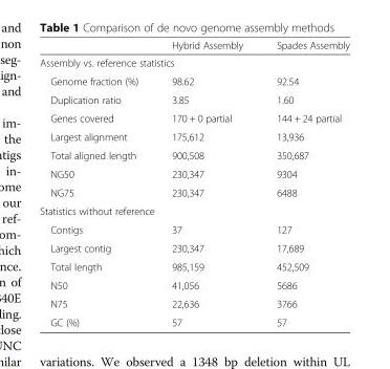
<table><thead><tr><td></td><td>Hybrid Assembly</td><td>Spades Assembly</td></tr></thead><tbody><tr><td colspan="3">Assembly vs. reference statistics</td></tr><tr><td>Genome fraction (%)</td><td>98.62</td><td>92.54</td></tr><tr><td>Duplication ratio</td><td>3.85</td><td>1.60</td></tr><tr><td>Genes covered</td><td>170 + 0 partial</td><td>144 + 24 partial</td></tr><tr><td>Largest alignment</td><td>175,612</td><td>13,936</td></tr><tr><td>Total aligned length</td><td>900,508</td><td>350,687</td></tr><tr><td>NG50</td><td>230,347</td><td>9304</td></tr><tr><td>NG75</td><td>230,347</td><td>6488</td></tr><tr><td colspan="3">Statistics without reference</td></tr><tr><td>Contigs</td><td>37</td><td>127</td></tr><tr><td>Largest contig</td><td>230,347</td><td>17,689</td></tr><tr><td>Total length</td><td>985,159</td><td>452,509</td></tr><tr><td>N50</td><td>41,056</td><td>5686</td></tr><tr><td>N75</td><td>22,636</td><td>3766</td></tr><tr><td>GC (%)</td><td>57</td><td>57</td></tr></tbody></table>